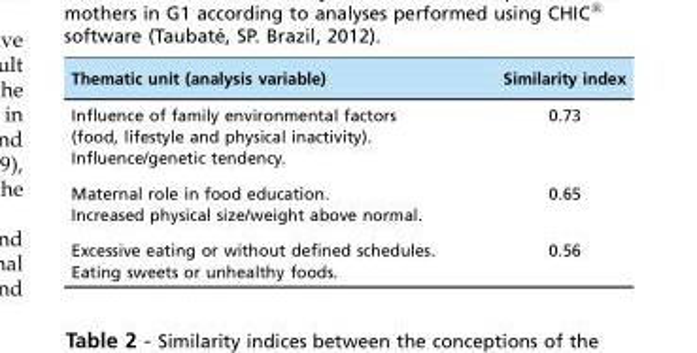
<table><thead><tr><td>Thematic unit (analysis variable)</td><td>Similarity index</td></tr></thead><tbody><tr><td>Influence of family environmental factors (food, lifestyle and physical inactivity).</td><td rowspan="2">0.73</td></tr><tr><td>Influence/genetic tendency.</td></tr><tr><td>Maternal role in food education.</td><td rowspan="2">0.65</td></tr><tr><td>Increased physical size/weight above normal.</td></tr><tr><td>Excessive eating or without defined schedules.</td><td rowspan="2">0.56</td></tr><tr><td>Eating sweets or unhealthy foods.</td></tr></tbody></table>